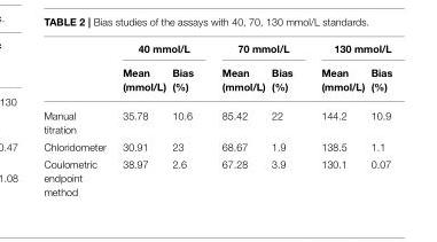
<table><thead><tr><td rowspan="2"></td><td colspan="2">40 mmol/L</td><td colspan="2">70 mmol/L</td><td colspan="2">130 mmol/L</td></tr><tr><td>Mean (mmol/L)</td><td>Bias (%)</td><td>Mean (mmol/L)</td><td>Bias (%)</td><td>Mean (mmol/L)</td><td>Bias (%)</td></tr></thead><tbody><tr><td>Manual titration</td><td>35.78</td><td>10.6</td><td>85.42</td><td>22</td><td>144.2</td><td>10.9</td></tr><tr><td>Chloridometer</td><td>30.91</td><td>23</td><td>68.67</td><td>1.9</td><td>138.5</td><td>1.1</td></tr><tr><td>Coulometric endpoint method</td><td>38.97</td><td>2.6</td><td>67.28</td><td>3.9</td><td>130.1</td><td>0.07</td></tr></tbody></table>